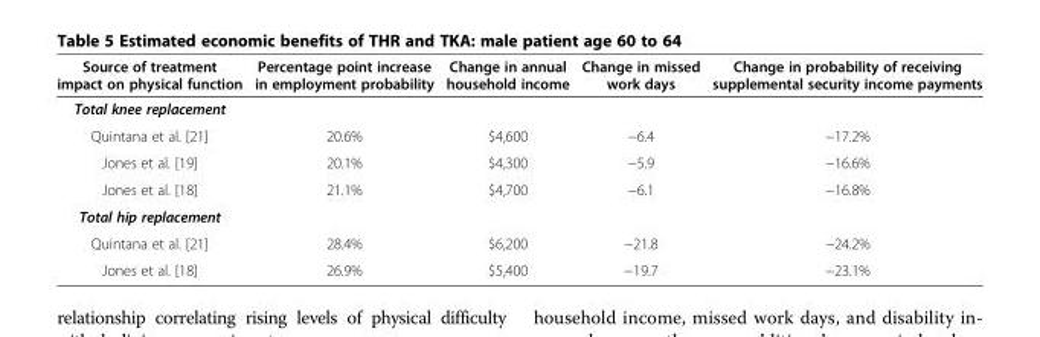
<table><thead><tr><td>Source of treatment impact on physical function</td><td>Percentage point increase in employment probability</td><td>Change in annual household income</td><td>Change in missed work days</td><td>Change in probability of receiving supplemental security income payments</td></tr></thead><tbody><tr><td colspan="5">Total knee replacement</td></tr><tr><td>Quintana et al. [21]</td><td>20.6%</td><td>$4,600</td><td>−6.4</td><td>−17.2%</td></tr><tr><td>Jones et al. [19]</td><td>20.1%</td><td>$4,300</td><td>−5.9</td><td>−16.6%</td></tr><tr><td>Jones et al. [18]</td><td>21.1%</td><td>$4,700</td><td>−6.1</td><td>−16.8%</td></tr><tr><td colspan="5">Total hip replacement</td></tr><tr><td>Quintana et al. [21]</td><td>28.4%</td><td>$6,200</td><td>−21.8</td><td>−24.2%</td></tr><tr><td>Jones et al. [18]</td><td>26.9%</td><td>$5,400</td><td>−19.7</td><td>−23.1%</td></tr></tbody></table>